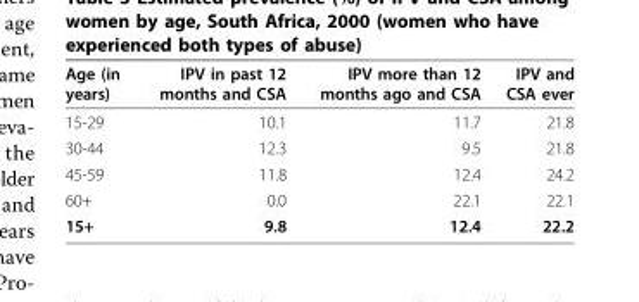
<table><thead><tr><td>Age (in years)</td><td>IPV in past 12 months and CSA</td><td>IPV more than 12 months ago and CSA</td><td>IPV and CSA ever</td></tr></thead><tbody><tr><td>15-29</td><td>10.1</td><td>11.7</td><td>21.8</td></tr><tr><td>30-44</td><td>12.3</td><td>9.5</td><td>21.8</td></tr><tr><td>45-59</td><td>11.8</td><td>12.4</td><td>24.2</td></tr><tr><td>60+</td><td>0.0</td><td>22.1</td><td>22.1</td></tr><tr><td>15+</td><td>9.8</td><td>12.4</td><td>22.2</td></tr></tbody></table>